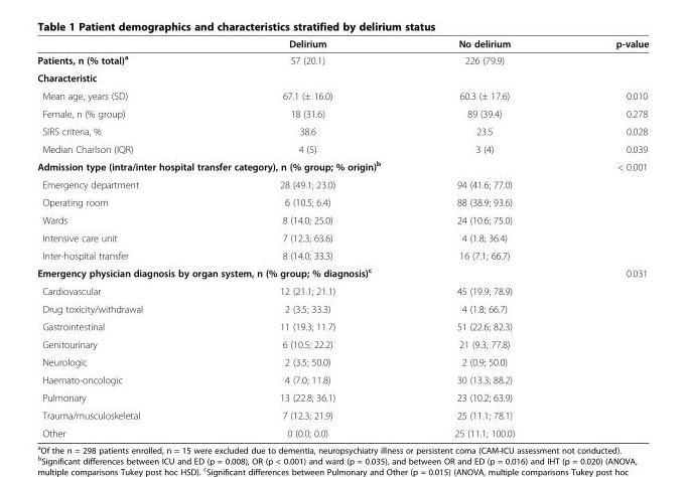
<table><thead><tr><td></td><td>Delirium</td><td>No delirium</td><td>p-value</td></tr></thead><tbody><tr><td>Patients, n (% total)<sup>a</sup></td><td>57 (20.1)</td><td>226 (79.9)</td><td></td></tr><tr><td colspan="4">Characteristic</td></tr><tr><td>Mean age, years (SD)</td><td>67.1 (± 16.0)</td><td>60.3 (± 17.6)</td><td>0.010</td></tr><tr><td>Female, n (% group)</td><td>18 (31.6)</td><td>89 (39.4)</td><td>0.278</td></tr><tr><td>SIRS criteria, %</td><td>38.6</td><td>23.5</td><td>0.028</td></tr><tr><td>Median Charlson (IQR)</td><td>4 (5)</td><td>3 (4)</td><td>0.039</td></tr><tr><td colspan="3">Admission type (intra/inter hospital transfer category), n (% group; % origin)<sup>b</sup></td><td>&lt; 0.001</td></tr><tr><td>Emergency department</td><td>28 (49.1; 23.0)</td><td>94 (41.6; 77.0)</td><td></td></tr><tr><td>Operating room</td><td>6 (10.5; 6.4)</td><td>88 (38.9; 93.6)</td><td></td></tr><tr><td>Wards</td><td>8 (14.0; 25.0)</td><td>24 (10.6; 75.0)</td><td></td></tr><tr><td>Intensive care unit</td><td>7 (12.3; 63.6)</td><td>4 (1.8; 36.4)</td><td></td></tr><tr><td>Inter-hospital transfer</td><td>8 (14.0; 33.3)</td><td>16 (7.1; 66.7)</td><td></td></tr><tr><td colspan="3">Emergency physician diagnosis by organ system, n (% group; % diagnosis)<sup>c</sup></td><td>0.031</td></tr><tr><td>Cardiovascular</td><td>12 (21.1; 21.1)</td><td>45 (19.9; 78.9)</td><td></td></tr><tr><td>Drug toxicity/withdrawal</td><td>2 (3.5; 33.3)</td><td>4 (1.8; 66.7)</td><td></td></tr><tr><td>Gastrointestinal</td><td>11 (19.3; 11.7)</td><td>51 (22.6; 82.3)</td><td></td></tr><tr><td>Genitourinary</td><td>6 (10.5; 22.2)</td><td>21 (9.3; 77.8)</td><td></td></tr><tr><td>Neurologic</td><td>2 (3.5; 50.0)</td><td>2 (0.9; 50.0)</td><td></td></tr><tr><td>Haemato-oncologic</td><td>4 (7.0; 11.8)</td><td>30 (13.3; 88.2)</td><td></td></tr><tr><td>Pulmonary</td><td>13 (22.8; 36.1)</td><td>23 (10.2; 63.9)</td><td></td></tr><tr><td>Trauma/musculoskeletal</td><td>7 (12.3; 21.9)</td><td>25 (11.1; 78.1)</td><td></td></tr><tr><td>Other</td><td>0 (0.0; 0.0)</td><td>25 (11.1; 100.0)</td><td></td></tr></tbody></table>